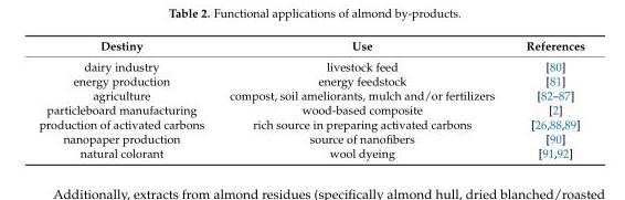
<table><thead><tr><td>Destiny</td><td>Use</td><td>References</td></tr></thead><tbody><tr><td>dairy industry</td><td>livestock feed</td><td>[80]</td></tr><tr><td>energy production</td><td>energy feedstock</td><td>[81]</td></tr><tr><td>agriculture</td><td>compost, soil ameliorants, mulch and/or fertilizers</td><td>[82–87]</td></tr><tr><td>particleboard manufacturing</td><td>wood-based composite</td><td>[2]</td></tr><tr><td>production of activated carbons</td><td>rich source in preparing activated carbons</td><td>[26,88,89]</td></tr><tr><td>nanopaper production</td><td>source of nanofibers</td><td>[90]</td></tr><tr><td>natural colorant</td><td>wool dyeing</td><td>[91,92]</td></tr></tbody></table>